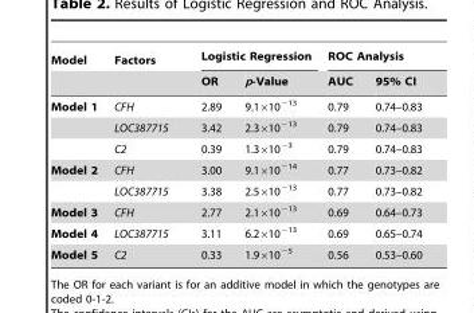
<table><thead><tr><td rowspan="2">Model</td><td rowspan="2">Factors</td><td colspan="2">Logistic Regression</td><td colspan="2">ROC Analysis</td></tr><tr><td>OR</td><td>p-Value</td><td>AUC</td><td>95% CI</td></tr></thead><tbody><tr><td rowspan="3">Model 1</td><td>CFH</td><td>2.89</td><td>9.1×10<sup>−13</sup></td><td>0.79</td><td>0.74–0.83</td></tr><tr><td>LOC387715</td><td>3.42</td><td>2.3×10<sup>−13</sup></td><td>0.79</td><td>0.74–0.83</td></tr><tr><td>C2</td><td>0.39</td><td>1.3×10<sup>−3</sup></td><td>0.79</td><td>0.74–0.83</td></tr><tr><td rowspan="2">Model 2</td><td>CFH</td><td>3.00</td><td>9.1×10<sup>−14</sup></td><td>0.77</td><td>0.73–0.82</td></tr><tr><td>LOC387715</td><td>3.38</td><td>2.5×10<sup>−13</sup></td><td>0.77</td><td>0.73–0.82</td></tr><tr><td>Model 3</td><td>CFH</td><td>2.77</td><td>2.1×10<sup>−13</sup></td><td>0.69</td><td>0.64–0.73</td></tr><tr><td>Model 4</td><td>LOC387715</td><td>3.11</td><td>6.2×10<sup>−13</sup></td><td>0.69</td><td>0.65–0.74</td></tr><tr><td>Model 5</td><td>C2</td><td>0.33</td><td>1.9×10<sup>−5</sup></td><td>0.56</td><td>0.53–0.60</td></tr></tbody></table>